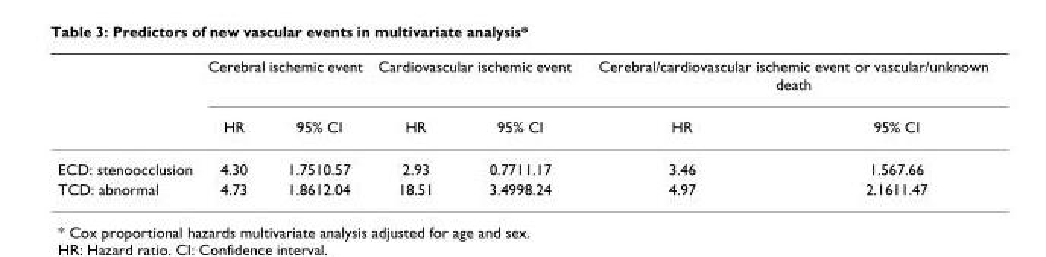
<table><thead><tr><td rowspan="2"></td><td colspan="2">Cerebral ischemic event</td><td colspan="2">Cardiovascular ischemic event</td><td colspan="2">Cerebral/cardiovascular ischemic event or vascular/unknown death</td></tr><tr><td>HR</td><td>95% CI</td><td>HR</td><td>95% CI</td><td>HR</td><td>95% CI</td></tr></thead><tbody><tr><td>ECD: stenoocclusion</td><td>4.30</td><td>1.7510.57</td><td>2.93</td><td>0.7711.17</td><td>3.46</td><td>1.567.66</td></tr><tr><td>TCD: abnormal</td><td>4.73</td><td>1.8612.04</td><td>18.51</td><td>3.4998.24</td><td>4.97</td><td>2.1611.47</td></tr></tbody></table>